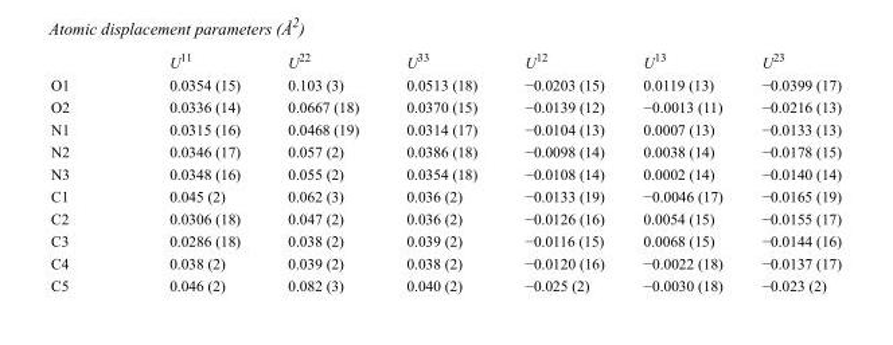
<table><thead><tr><td></td><td>U<sup>11</sup></td><td>U<sup>22</sup></td><td>U<sup>33</sup></td><td>U<sup>12</sup></td><td>U<sup>13</sup></td><td>U<sup>23</sup></td></tr></thead><tbody><tr><td>O1</td><td>0.0354 (15)</td><td>0.103 (3)</td><td>0.0513 (18)</td><td>−0.0203 (15)</td><td>0.0119 (13)</td><td>−0.0399 (17)</td></tr><tr><td>O2</td><td>0.0336 (14)</td><td>0.0667 (18)</td><td>0.0370 (15)</td><td>−0.0139 (12)</td><td>−0.0013 (11)</td><td>−0.0216 (13)</td></tr><tr><td>N1</td><td>0.0315 (16)</td><td>0.0468 (19)</td><td>0.0314 (17)</td><td>−0.0104 (13)</td><td>0.0007 (13)</td><td>−0.0133 (13)</td></tr><tr><td>N2</td><td>0.0346 (17)</td><td>0.057 (2)</td><td>0.0386 (18)</td><td>−0.0098 (14)</td><td>0.0038 (14)</td><td>−0.0178 (15)</td></tr><tr><td>N3</td><td>0.0348 (16)</td><td>0.055 (2)</td><td>0.0354 (18)</td><td>−0.0108 (14)</td><td>0.0002 (14)</td><td>−0.0140 (14)</td></tr><tr><td>C1</td><td>0.045 (2)</td><td>0.062 (3)</td><td>0.036 (2)</td><td>−0.0133 (19)</td><td>−0.0046 (17)</td><td>−0.0165 (19)</td></tr><tr><td>C2</td><td>0.0306 (18)</td><td>0.047 (2)</td><td>0.036 (2)</td><td>−0.0126 (16)</td><td>0.0054 (15)</td><td>−0.0155 (17)</td></tr><tr><td>C3</td><td>0.0286 (18)</td><td>0.038 (2)</td><td>0.039 (2)</td><td>−0.0116 (15)</td><td>0.0068 (15)</td><td>−0.0144 (16)</td></tr><tr><td>C4</td><td>0.038 (2)</td><td>0.039 (2)</td><td>0.038 (2)</td><td>−0.0120 (16)</td><td>−0.0022 (18)</td><td>−0.0137 (17)</td></tr><tr><td>C5</td><td>0.046 (2)</td><td>0.082 (3)</td><td>0.040 (2)</td><td>−0.025 (2)</td><td>−0.0030 (18)</td><td>−0.023 (2)</td></tr></tbody></table>